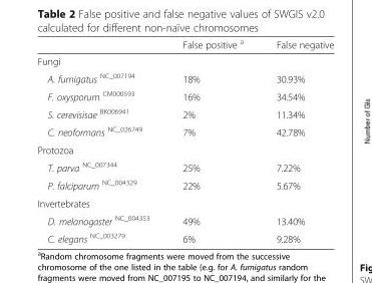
<table><thead><tr><td></td><td>False positive <sup>a</sup></td><td>False negative</td></tr></thead><tbody><tr><td colspan="3">Fungi</td></tr><tr><td>A. fumigatus <sup>NC_007194</sup></td><td>18%</td><td>30.93%</td></tr><tr><td>F. oxysporum <sup>CM000593</sup></td><td>16%</td><td>34.54%</td></tr><tr><td>S. cerevisisae <sup>BK006941</sup></td><td>2%</td><td>11.34%</td></tr><tr><td>C. neoformans <sup>NC_026749</sup></td><td>7%</td><td>42.78%</td></tr><tr><td colspan="3">Protozoa</td></tr><tr><td>T. parva <sup>NC_007344</sup></td><td>25%</td><td>7.22%</td></tr><tr><td>P. falciparum <sup>NC_004329</sup></td><td>22%</td><td>5.67%</td></tr><tr><td colspan="3">Invertebrates</td></tr><tr><td>D. melanogaster <sup>NC_004353</sup></td><td>49%</td><td>13.40%</td></tr><tr><td>C. elegans <sup>NC_003279</sup></td><td>6%</td><td>9.28%</td></tr></tbody></table>